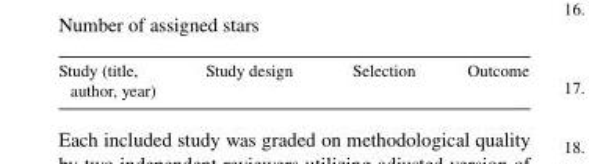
<table><tbody><tr><td>Study (title, author, year)</td><td>Study design</td><td>Selection</td><td>Outcome</td></tr></tbody></table>